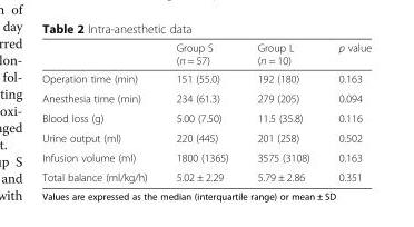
<table><thead><tr><td></td><td>Group S (n = 57)</td><td>Group L (n = 10)</td><td>p value</td></tr></thead><tbody><tr><td>Operation time (min)</td><td>151 (55.0)</td><td>192 (180)</td><td>0.163</td></tr><tr><td>Anesthesia time (min)</td><td>234 (61.3)</td><td>279 (205)</td><td>0.094</td></tr><tr><td>Blood loss (g)</td><td>5.00 (7.50)</td><td>11.5 (35.8)</td><td>0.116</td></tr><tr><td>Urine output (ml)</td><td>220 (445)</td><td>201 (258)</td><td>0.502</td></tr><tr><td>Infusion volume (ml)</td><td>1800 (1365)</td><td>3575 (3108)</td><td>0.163</td></tr><tr><td>Total balance (ml/kg/h)</td><td>5.02 ± 2.29</td><td>5.79 ± 2.86</td><td>0.351</td></tr></tbody></table>